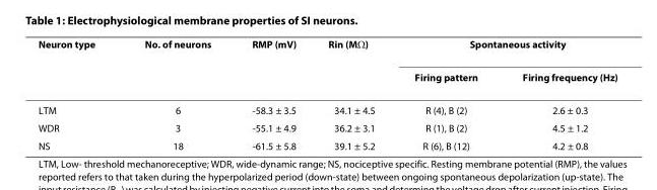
<table><thead><tr><td rowspan="2">Neuron type</td><td rowspan="2">No. of neurons</td><td rowspan="2">RMP (mV)</td><td rowspan="2">R<sub>in</sub> (MΩ)</td><td colspan="2">Spontaneous activity</td></tr><tr><td>Firing pattern</td><td>Firing frequency (Hz)</td></tr></thead><tbody><tr><td>LTM</td><td>6</td><td>-58.3 ± 3.5</td><td>34.1 ± 4.5</td><td>R (4), B (2)</td><td>2.6 ± 0.3</td></tr><tr><td>WDR</td><td>3</td><td>-55.1 ± 4.9</td><td>36.2 ± 3.1</td><td>R (1), B (2)</td><td>4.5 ± 1.2</td></tr><tr><td>NS</td><td>18</td><td>-61.5 ± 5.8</td><td>39.1 ± 5.2</td><td>R (6), B (12)</td><td>4.2 ± 0.8</td></tr></tbody></table>